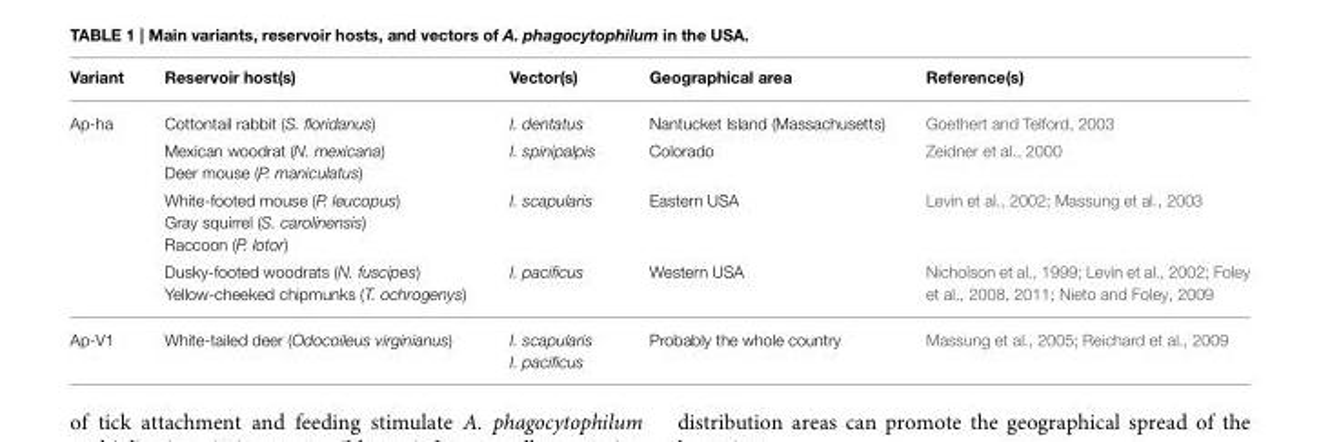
<table><thead><tr><td>Variant</td><td>Reservoir host(s)</td><td>Vector(s)</td><td>Geographical area</td><td>Reference(s)</td></tr></thead><tbody><tr><td rowspan="4">Ap-ha</td><td>Cottontail rabbit (S. floridanus)</td><td>I. dentatus</td><td>Nantucket Island (Massachusetts)</td><td>Goethert and Telford, 2003</td></tr><tr><td>Mexican woodrat (N. mexicana) Deer mouse (P. maniculatus)</td><td>I. spinipalpis</td><td>Colorado</td><td>Zeidner et al., 2000</td></tr><tr><td>White-footed mouse (P. leucopus) Gray squirrel (S. carolinensis) Raccoon (P. lotor)</td><td>I. scapularis</td><td>Eastern USA</td><td>Levin et al., 2002; Massung et al., 2003</td></tr><tr><td>Dusky-footed woodrats (N. fuscipes) Yellow-cheeked chipmunks (T. ochrogenys)</td><td>I. pacificus</td><td>Western USA</td><td>Nicholson et al., 1999; Levin et al., 2002; Foley et al., 2008, 2011; Nieto and Foley, 2009</td></tr><tr><td>Ap-V1</td><td>White-tailed deer (Odocoileus virginianus)</td><td>I. scapularis I. pacificus</td><td>Probably the whole country</td><td>Massung et al., 2005; Reichard et al., 2009</td></tr></tbody></table>